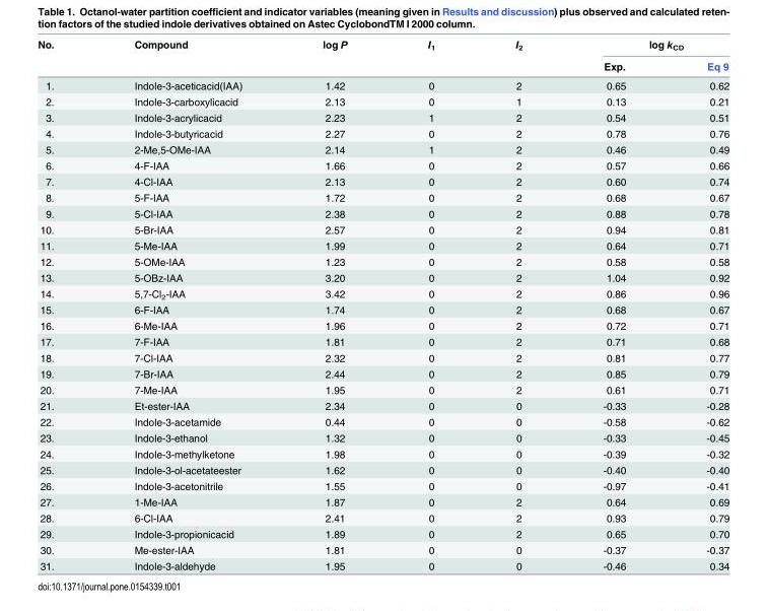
<table><thead><tr><td rowspan="2">No.</td><td rowspan="2">Compound</td><td rowspan="2">log P</td><td rowspan="2">I<sub>1</sub></td><td rowspan="2">I<sub>2</sub></td><td colspan="2">log k<sub>CD</sub></td></tr><tr><td>Exp.</td><td>Eq 9</td></tr></thead><tbody><tr><td>1.</td><td>Indole-3-aceticacid(IAA)</td><td>1.42</td><td>0</td><td>2</td><td>0.65</td><td>0.62</td></tr><tr><td>2.</td><td>Indole-3-carboxylicacid</td><td>2.13</td><td>0</td><td>1</td><td>0.13</td><td>0.21</td></tr><tr><td>3.</td><td>Indole-3-acrylicacid</td><td>2.23</td><td>1</td><td>2</td><td>0.54</td><td>0.51</td></tr><tr><td>4.</td><td>Indole-3-butyricacid</td><td>2.27</td><td>0</td><td>2</td><td>0.78</td><td>0.76</td></tr><tr><td>5.</td><td>2-Me,5-OMe-IAA</td><td>2.14</td><td>1</td><td>2</td><td>0.46</td><td>0.49</td></tr><tr><td>6.</td><td>4-F-IAA</td><td>1.66</td><td>0</td><td>2</td><td>0.57</td><td>0.66</td></tr><tr><td>7.</td><td>4-Cl-IAA</td><td>2.13</td><td>0</td><td>2</td><td>0.60</td><td>0.74</td></tr><tr><td>8.</td><td>5-F-IAA</td><td>1.72</td><td>0</td><td>2</td><td>0.68</td><td>0.67</td></tr><tr><td>9.</td><td>5-Cl-IAA</td><td>2.38</td><td>0</td><td>2</td><td>0.88</td><td>0.78</td></tr><tr><td>10.</td><td>5-Br-IAA</td><td>2.57</td><td>0</td><td>2</td><td>0.94</td><td>0.81</td></tr><tr><td>11.</td><td>5-Me-IAA</td><td>1.99</td><td>0</td><td>2</td><td>0.64</td><td>0.71</td></tr><tr><td>12.</td><td>5-OMe-IAA</td><td>1.23</td><td>0</td><td>2</td><td>0.58</td><td>0.58</td></tr><tr><td>13.</td><td>5-OBz-IAA</td><td>3.20</td><td>0</td><td>2</td><td>1.04</td><td>0.92</td></tr><tr><td>14.</td><td>5,7-Cl<sub>2</sub>-IAA</td><td>3.42</td><td>0</td><td>2</td><td>0.86</td><td>0.96</td></tr><tr><td>15.</td><td>6-F-IAA</td><td>1.74</td><td>0</td><td>2</td><td>0.68</td><td>0.67</td></tr><tr><td>16.</td><td>6-Me-IAA</td><td>1.96</td><td>0</td><td>2</td><td>0.72</td><td>0.71</td></tr><tr><td>17.</td><td>7-F-IAA</td><td>1.81</td><td>0</td><td>2</td><td>0.71</td><td>0.68</td></tr><tr><td>18.</td><td>7-Cl-IAA</td><td>2.32</td><td>0</td><td>2</td><td>0.81</td><td>0.77</td></tr><tr><td>19.</td><td>7-Br-IAA</td><td>2.44</td><td>0</td><td>2</td><td>0.85</td><td>0.79</td></tr><tr><td>20.</td><td>7-Me-IAA</td><td>1.95</td><td>0</td><td>2</td><td>0.61</td><td>0.71</td></tr><tr><td>21.</td><td>Et-ester-IAA</td><td>2.34</td><td>0</td><td>0</td><td>-0.33</td><td>-0.28</td></tr><tr><td>22.</td><td>Indole-3-acetamide</td><td>0.44</td><td>0</td><td>0</td><td>-0.58</td><td>-0.62</td></tr><tr><td>23.</td><td>Indole-3-ethanol</td><td>1.32</td><td>0</td><td>0</td><td>-0.33</td><td>-0.45</td></tr><tr><td>24.</td><td>Indole-3-methylketone</td><td>1.98</td><td>0</td><td>0</td><td>-0.39</td><td>-0.32</td></tr><tr><td>25.</td><td>Indole-3-ol-acetateester</td><td>1.62</td><td>0</td><td>0</td><td>-0.40</td><td>-0.40</td></tr><tr><td>26.</td><td>Indole-3-acetonitrile</td><td>1.55</td><td>0</td><td>0</td><td>-0.97</td><td>-0.41</td></tr><tr><td>27.</td><td>1-Me-IAA</td><td>1.87</td><td>0</td><td>2</td><td>0.64</td><td>0.69</td></tr><tr><td>28.</td><td>6-Cl-IAA</td><td>2.41</td><td>0</td><td>2</td><td>0.93</td><td>0.79</td></tr><tr><td>29.</td><td>Indole-3-propionicacid</td><td>1.89</td><td>0</td><td>2</td><td>0.65</td><td>0.70</td></tr><tr><td>30.</td><td>Me-ester-IAA</td><td>1.81</td><td>0</td><td>0</td><td>-0.37</td><td>-0.37</td></tr><tr><td>31.</td><td>Indole-3-aldehyde</td><td>1.95</td><td>0</td><td>0</td><td>-0.46</td><td>0.34</td></tr></tbody></table>